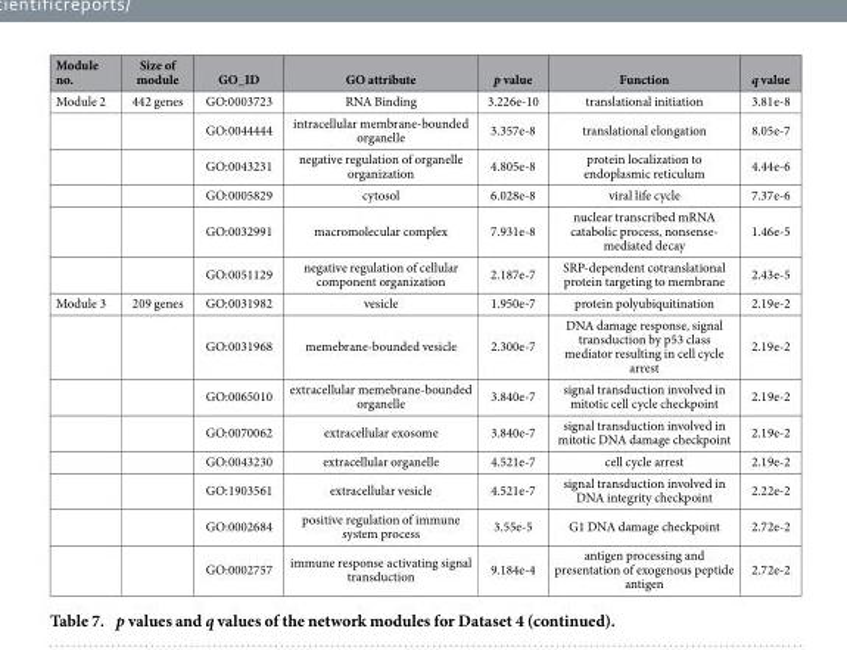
<table><thead><tr><td>Module no.</td><td>Size of module</td><td>GO_ID</td><td>GO attribute</td><td>p value</td><td>Function</td><td>q value</td></tr></thead><tbody><tr><td rowspan="6">Module 2</td><td>442 genes</td><td>GO:0003723</td><td>RNA Binding</td><td>3.226e-10</td><td>translational initiation</td><td>3.81e-8</td></tr><tr><td></td><td>GO:0044444</td><td>intracellular membrane-bounded organelle</td><td>3.357e-8</td><td>translational elongation</td><td>8.05e-7</td></tr><tr><td></td><td>GO:0043231</td><td>negative regulation of organelle organization</td><td>4.805e-8</td><td>protein localization to endoplasmic reticulum</td><td>4.44e-6</td></tr><tr><td></td><td>GO:0005829</td><td>cytosol</td><td>6.028e-8</td><td>viral life cycle</td><td>7.37e-6</td></tr><tr><td></td><td>GO:0032991</td><td>macromolecular complex</td><td>7.931e-8</td><td>nuclear transcribed mRNA catabolic process, nonsense- mediated decay</td><td>1.46e-5</td></tr><tr><td></td><td>GO:0051129</td><td>negative regulation of cellular component organization</td><td>2.187e-7</td><td>SRP-dependent cotranslational protein targeting to membrane</td><td>2.43e-5</td></tr><tr><td rowspan="8">Module 3</td><td>209 genes</td><td>GO:0031982</td><td>vesicle</td><td>1.950e-7</td><td>protein polyubiquitination</td><td>2.19e-2</td></tr><tr><td></td><td>GO:0031968</td><td>memebrane-bounded vesicle</td><td>2.300e-7</td><td>DNA damage response, signal transduction by p53 class mediator resulting in cell cycle arrest</td><td>2.19e-2</td></tr><tr><td></td><td>GO:0065010</td><td>extracellular memebrane-bounded organelle</td><td>3.840e-7</td><td>signal transduction involved in mitotic cell cycle checkpoint</td><td>2.19e-2</td></tr><tr><td></td><td>GO:0070062</td><td>extracellular exosome</td><td>3.840e-7</td><td>signal transduction involved in mitotic DNA damage checkpoint</td><td>2.19e-2</td></tr><tr><td></td><td>GO:0043230</td><td>extracellular organelle</td><td>4.521e-7</td><td>cell cycle arrest</td><td>2.19e-2</td></tr><tr><td></td><td>GO:1903561</td><td>extracellular vesicle</td><td>4.521e-7</td><td>signal transduction involved in DNA integrity checkpoint</td><td>2.22e-2</td></tr><tr><td></td><td>GO:0002684</td><td>positive regulation of immune system process</td><td>3.55e-5</td><td>G1 DNA damage checkpoint</td><td>2.72e-2</td></tr><tr><td></td><td>GO:0002757</td><td>immune response activating signal transduction</td><td>9.184e-4</td><td>antigen processing and presentation of exogenous peptide antigen</td><td>2.72e-2</td></tr></tbody></table>